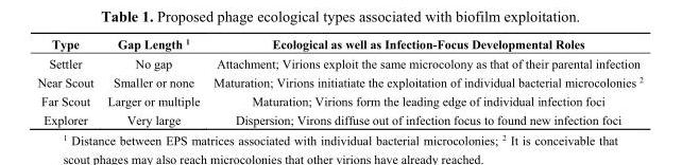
<table><thead><tr><td>Type</td><td>Gap Length <sup>1</sup></td><td>Ecological as well as Infection-Focus Developmental Roles</td></tr></thead><tbody><tr><td>Settler</td><td>No gap</td><td>Attachment; Virions exploit the same microcolony as that of their parental infection</td></tr><tr><td>Near Scout</td><td>Smaller or none</td><td>Maturation; Virions initiatiate the exploitation of individual bacterial microcolonies <sup>2</sup></td></tr><tr><td>Far Scout</td><td>Larger or multiple</td><td>Maturation; Virions form the leading edge of individual infection foci</td></tr><tr><td>Explorer</td><td>Very large</td><td>Dispersion; Virons diffuse out of infection focus to found new infection foci</td></tr></tbody></table>